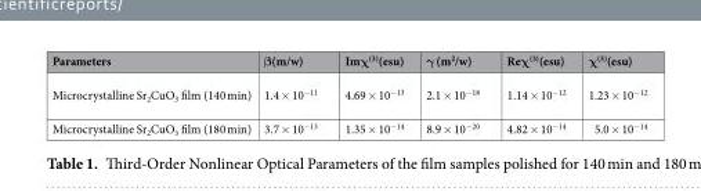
<table><thead><tr><td>Parameters</td><td>β(m/w)</td><td>Imχ<sup>(3)</sup>(esu)</td><td>γ (m<sup>2</sup>/w)</td><td>Reχ<sup>(3)</sup>(esu)</td><td>χ<sup>(3)</sup>(esu)</td></tr></thead><tbody><tr><td>Microcrystalline Sr<sub>2</sub>CuO<sub>3</sub> film (140 min)</td><td>1.4 × 10<sup>−11</sup></td><td>4.69 × 10<sup>−13</sup></td><td>2.1 × 10<sup>−18</sup></td><td>1.14 × 10<sup>−12</sup></td><td>1.23 × 10<sup>−12</sup></td></tr><tr><td>Microcrystalline Sr<sub>2</sub>CuO<sub>3</sub> film (180 min)</td><td>3.7 × 10<sup>−13</sup></td><td>1.35 × 10<sup>−14</sup></td><td>8.9 × 10<sup>−20</sup></td><td>4.82 × 10<sup>−14</sup></td><td>5.0 × 10<sup>−14</sup></td></tr></tbody></table>